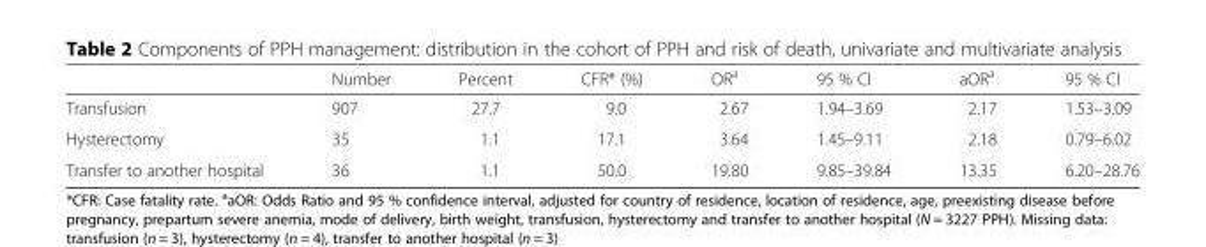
<table><thead><tr><td></td><td>Number</td><td>Percent</td><td>CFR* (%)</td><td>OR<sup>a</sup></td><td>95 % CI</td><td>aOR<sup>a</sup></td><td>95 % CI</td></tr></thead><tbody><tr><td>Transfusion</td><td>907</td><td>27.7</td><td>9.0</td><td>2.67</td><td>1.94–3.69</td><td>2.17</td><td>1.53–3.09</td></tr><tr><td>Hysterectomy</td><td>35</td><td>1.1</td><td>17.1</td><td>3.64</td><td>1.45–9.11</td><td>2.18</td><td>0.79–6.02</td></tr><tr><td>Transfer to another hospital</td><td>36</td><td>1.1</td><td>50.0</td><td>19.80</td><td>9.85–39.84</td><td>13.35</td><td>6.20–28.76</td></tr></tbody></table>